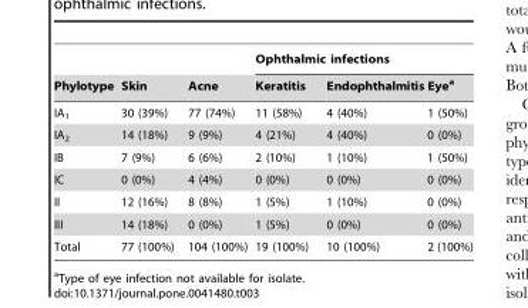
<table><thead><tr><td rowspan="2">Phylotype</td><td rowspan="2">Skin</td><td rowspan="2">Acne</td><td colspan="3">Ophthalmic infections</td></tr><tr><td>Keratitis</td><td>Endophthalmitis</td><td>Eye<sup>a</sup></td></tr></thead><tbody><tr><td>IA<sub>1</sub></td><td>30 (39%)</td><td>77 (74%)</td><td>11 (58%)</td><td>4 (40%)</td><td>1 (50%)</td></tr><tr><td>IA<sub>2</sub></td><td>14 (18%)</td><td>9 (9%)</td><td>4 (21%)</td><td>4 (40%)</td><td>0 (0%)</td></tr><tr><td>IB</td><td>7 (9%)</td><td>6 (6%)</td><td>2 (10%)</td><td>1 (10%)</td><td>1 (50%)</td></tr><tr><td>IC</td><td>0 (0%)</td><td>4 (4%)</td><td>0 (0%)</td><td>0 (0%)</td><td>0 (0%)</td></tr><tr><td>II</td><td>12 (16%)</td><td>8 (8%)</td><td>1 (5%)</td><td>1 (10%)</td><td>0 (0%)</td></tr><tr><td>III</td><td>14 (18%)</td><td>0 (0%)</td><td>1 (5%)</td><td>0 (0%)</td><td>0 (0%)</td></tr><tr><td>Total</td><td>77 (100%)</td><td>104 (100%)</td><td>19 (100%)</td><td>10 (100%)</td><td>2 (100%)</td></tr></tbody></table>